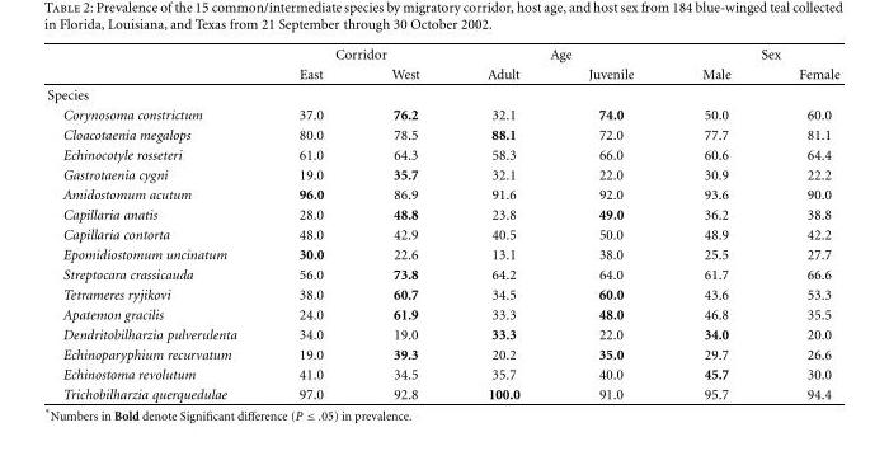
<table><thead><tr><td rowspan="2"></td><td colspan="2">Corridor</td><td colspan="2">Age</td><td colspan="2">Sex</td></tr><tr><td>East</td><td>West</td><td>Adult</td><td>Juvenile</td><td>Male</td><td>Female</td></tr></thead><tbody><tr><td colspan="7">Species</td></tr><tr><td>Corynosoma constrictum</td><td>37.0</td><td>76.2</td><td>32.1</td><td>74.0</td><td>50.0</td><td>60.0</td></tr><tr><td>Cloacotaenia megalops</td><td>80.0</td><td>78.5</td><td>88.1</td><td>72.0</td><td>77.7</td><td>81.1</td></tr><tr><td>Echinocotyle rosseteri</td><td>61.0</td><td>64.3</td><td>58.3</td><td>66.0</td><td>60.6</td><td>64.4</td></tr><tr><td>Gastrotaenia cygni</td><td>19.0</td><td>35.7</td><td>32.1</td><td>22.0</td><td>30.9</td><td>22.2</td></tr><tr><td>Amidostomum acutum</td><td>96.0</td><td>86.9</td><td>91.6</td><td>92.0</td><td>93.6</td><td>90.0</td></tr><tr><td>Capillaria anatis</td><td>28.0</td><td>48.8</td><td>23.8</td><td>49.0</td><td>36.2</td><td>38.8</td></tr><tr><td>Capillaria contorta</td><td>48.0</td><td>42.9</td><td>40.5</td><td>50.0</td><td>48.9</td><td>42.2</td></tr><tr><td>Epomidiostomum uncinatum</td><td>30.0</td><td>22.6</td><td>13.1</td><td>38.0</td><td>25.5</td><td>27.7</td></tr><tr><td>Streptocara crassicauda</td><td>56.0</td><td>73.8</td><td>64.2</td><td>64.0</td><td>61.7</td><td>66.6</td></tr><tr><td>Tetrameres ryjikovi</td><td>38.0</td><td>60.7</td><td>34.5</td><td>60.0</td><td>43.6</td><td>53.3</td></tr><tr><td>Apatemon gracilis</td><td>24.0</td><td>61.9</td><td>33.3</td><td>48.0</td><td>46.8</td><td>35.5</td></tr><tr><td>Dendritobilharzia pulverulenta</td><td>34.0</td><td>19.0</td><td>33.3</td><td>22.0</td><td>34.0</td><td>20.0</td></tr><tr><td>Echinoparyphium recurvatum</td><td>19.0</td><td>39.3</td><td>20.2</td><td>35.0</td><td>29.7</td><td>26.6</td></tr><tr><td>Echinostoma revolutum</td><td>41.0</td><td>34.5</td><td>35.7</td><td>40.0</td><td>45.7</td><td>30.0</td></tr><tr><td>Trichobilharzia querquedulae</td><td>97.0</td><td>92.8</td><td>100.0</td><td>91.0</td><td>95.7</td><td>94.4</td></tr></tbody></table>